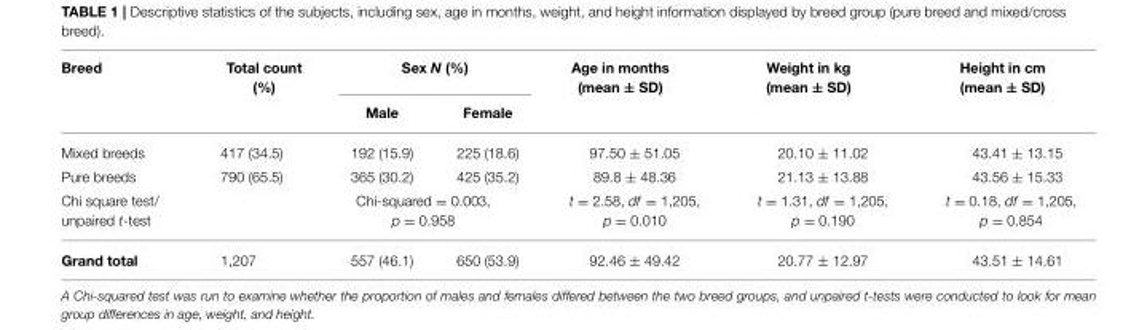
<table><thead><tr><td rowspan="2">Breed</td><td rowspan="2">Total count (%)</td><td colspan="2">Sex N (%)</td><td rowspan="2">Age in months (mean ± SD)</td><td rowspan="2">Weight in kg (mean ± SD)</td><td rowspan="2">Height in cm (mean ± SD)</td></tr><tr><td>Male</td><td>Female</td></tr></thead><tbody><tr><td>Mixed breeds</td><td>417 (34.5)</td><td>192 (15.9)</td><td>225 (18.6)</td><td>97.50 ± 51.05</td><td>20.10 ± 11.02</td><td>43.41 ± 13.15</td></tr><tr><td>Pure breeds</td><td>790 (65.5)</td><td>365 (30.2)</td><td>425 (35.2)</td><td>89.8 ± 48.36</td><td>21.13 ± 13.88</td><td>43.56 ± 15.33</td></tr><tr><td>Chi square test/ unpaired t-test</td><td></td><td colspan="2">Chi-squared = 0.003, p = 0.958</td><td>t = 2.58, df = 1,205, p = 0.010</td><td>t = 1.31, df = 1,205, p = 0.190</td><td>t = 0.18, df = 1,205, p = 0.854</td></tr><tr><td>Grand total</td><td>1,207</td><td>557 (46.1)</td><td>650 (53.9)</td><td>92.46 ± 49.42</td><td>20.77 ± 12.97</td><td>43.51 ± 14.61</td></tr></tbody></table>